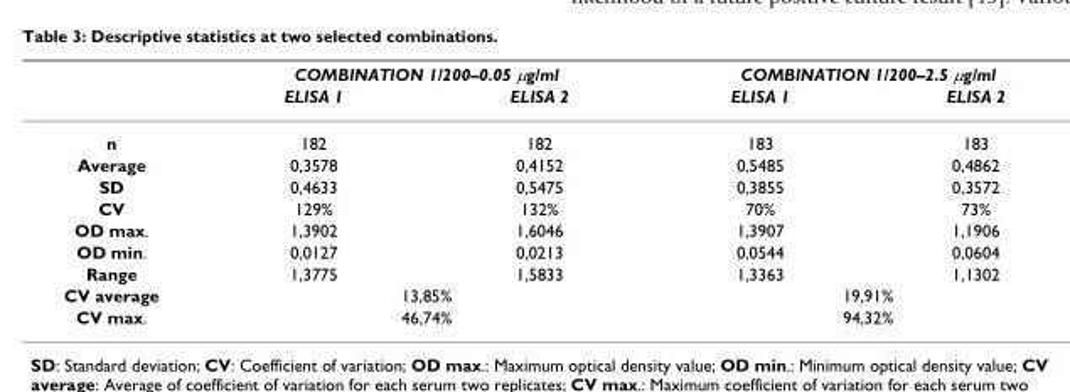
<table><thead><tr><td rowspan="2"></td><td colspan="2">COMBINATION 1/200–0.05 μg/ml</td><td colspan="2">COMBINATION 1/200–2.5 μg/ml</td></tr><tr><td>ELISA 1</td><td>ELISA 2</td><td>ELISA 1</td><td>ELISA 2</td></tr></thead><tbody><tr><td>n</td><td>182</td><td>182</td><td>183</td><td>183</td></tr><tr><td>Average</td><td>0,3578</td><td>0,4152</td><td>0,5485</td><td>0,4862</td></tr><tr><td>SD</td><td>0,4633</td><td>0,5475</td><td>0,3855</td><td>0,3572</td></tr><tr><td>CV</td><td>129%</td><td>132%</td><td>70%</td><td>73%</td></tr><tr><td>OD max.</td><td>1,3902</td><td>1,6046</td><td>1,3907</td><td>1,1906</td></tr><tr><td>OD min.</td><td>0,0127</td><td>0,0213</td><td>0,0544</td><td>0,0604</td></tr><tr><td>Range</td><td>1,3775</td><td>1,5833</td><td>1,3363</td><td>1,1302</td></tr><tr><td>CV average</td><td colspan="2">13,85%</td><td colspan="2">19,91%</td></tr><tr><td>CV max.</td><td colspan="2">46,74%</td><td colspan="2">94,32%</td></tr></tbody></table>